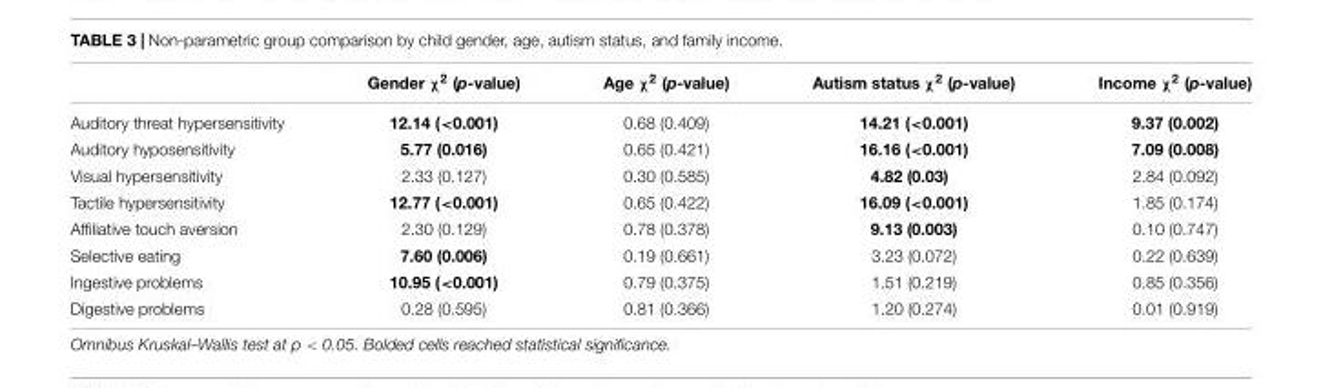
<table><thead><tr><td></td><td>Gender χ<sup>2</sup> (p-value)</td><td>Age χ<sup>2</sup> (p-value)</td><td>Autism status χ<sup>2</sup> (p-value)</td><td>Income χ<sup>2</sup> (p-value)</td></tr></thead><tbody><tr><td>Auditory threat hypersensitivity</td><td>12.14 (&lt;0.001)</td><td>0.68 (0.409)</td><td>14.21 (&lt;0.001)</td><td>9.37 (0.002)</td></tr><tr><td>Auditory hyposensitivity</td><td>5.77 (0.016)</td><td>0.65 (0.421)</td><td>16.16 (&lt;0.001)</td><td>7.09 (0.008)</td></tr><tr><td>Visual hypersensitivity</td><td>2.33 (0.127)</td><td>0.30 (0.585)</td><td>4.82 (0.03)</td><td>2.84 (0.092)</td></tr><tr><td>Tactile hypersensitivity</td><td>12.77 (&lt;0.001)</td><td>0.65 (0.422)</td><td>16.09 (&lt;0.001)</td><td>1.85 (0.174)</td></tr><tr><td>Affiliative touch aversion</td><td>2.30 (0.129)</td><td>0.78 (0.378)</td><td>9.13 (0.003)</td><td>0.10 (0.747)</td></tr><tr><td>Selective eating</td><td>7.60 (0.006)</td><td>0.19 (0.661)</td><td>3.23 (0.072)</td><td>0.22 (0.639)</td></tr><tr><td>Ingestive problems</td><td>10.95 (&lt;0.001)</td><td>0.79 (0.375)</td><td>1.51 (0.219)</td><td>0.85 (0.356)</td></tr><tr><td>Digestive problems</td><td>0.28 (0.595)</td><td>0.81 (0.366)</td><td>1.20 (0.274)</td><td>0.01 (0.919)</td></tr></tbody></table>